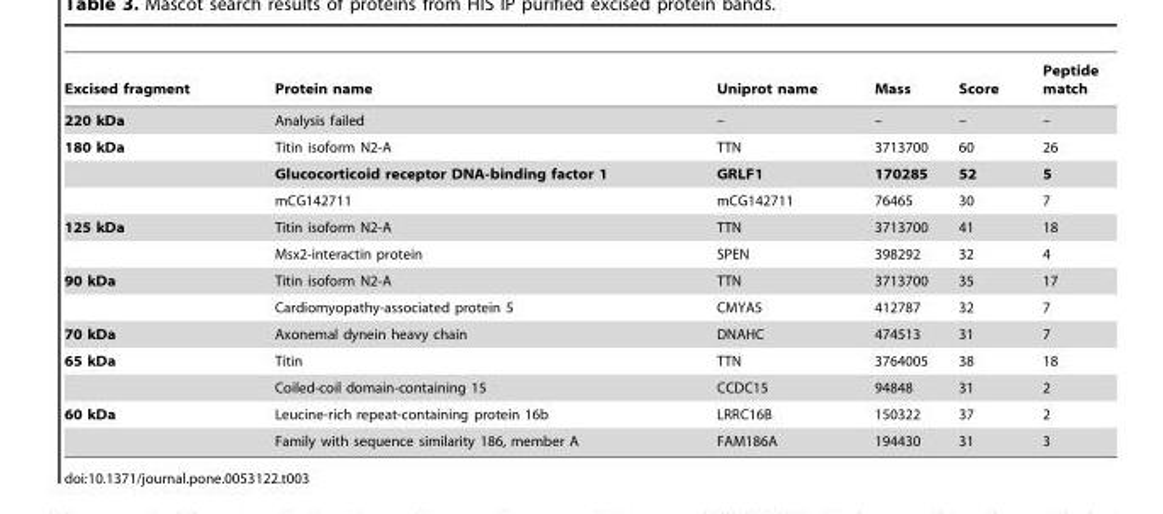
<table><thead><tr><td>Excised fragment</td><td>Protein name</td><td>Uniprot name</td><td>Mass</td><td>Score</td><td>Peptide match</td></tr></thead><tbody><tr><td>220 kDa</td><td>Analysis failed</td><td>–</td><td>–</td><td>–</td><td>–</td></tr><tr><td rowspan="3">180 kDa</td><td>Titin isoform N2-A</td><td>TTN</td><td>3713700</td><td>60</td><td>26</td></tr><tr><td>Glucocorticoid receptor DNA-binding factor 1</td><td>GRLF1</td><td>170285</td><td>52</td><td>5</td></tr><tr><td>mCG142711</td><td>mCG142711</td><td>76465</td><td>30</td><td>7</td></tr><tr><td rowspan="2">125 kDa</td><td>Titin isoform N2-A</td><td>TTN</td><td>3713700</td><td>41</td><td>18</td></tr><tr><td>Msx2-interactin protein</td><td>SPEN</td><td>398292</td><td>32</td><td>4</td></tr><tr><td rowspan="2">90 kDa</td><td>Titin isoform N2-A</td><td>TTN</td><td>3713700</td><td>35</td><td>17</td></tr><tr><td>Cardiomyopathy-associated protein 5</td><td>CMYA5</td><td>412787</td><td>32</td><td>7</td></tr><tr><td>70 kDa</td><td>Axonemal dynein heavy chain</td><td>DNAHC</td><td>474513</td><td>31</td><td>7</td></tr><tr><td rowspan="2">65 kDa</td><td>Titin</td><td>TTN</td><td>3764005</td><td>38</td><td>18</td></tr><tr><td>Coiled-coil domain-containing 15</td><td>CCDC15</td><td>94848</td><td>31</td><td>2</td></tr><tr><td rowspan="2">60 kDa</td><td>Leucine-rich repeat-containing protein 16b</td><td>LRRC16B</td><td>150322</td><td>37</td><td>2</td></tr><tr><td>Family with sequence similarity 186, member A</td><td>FAM186A</td><td>194430</td><td>31</td><td>3</td></tr></tbody></table>